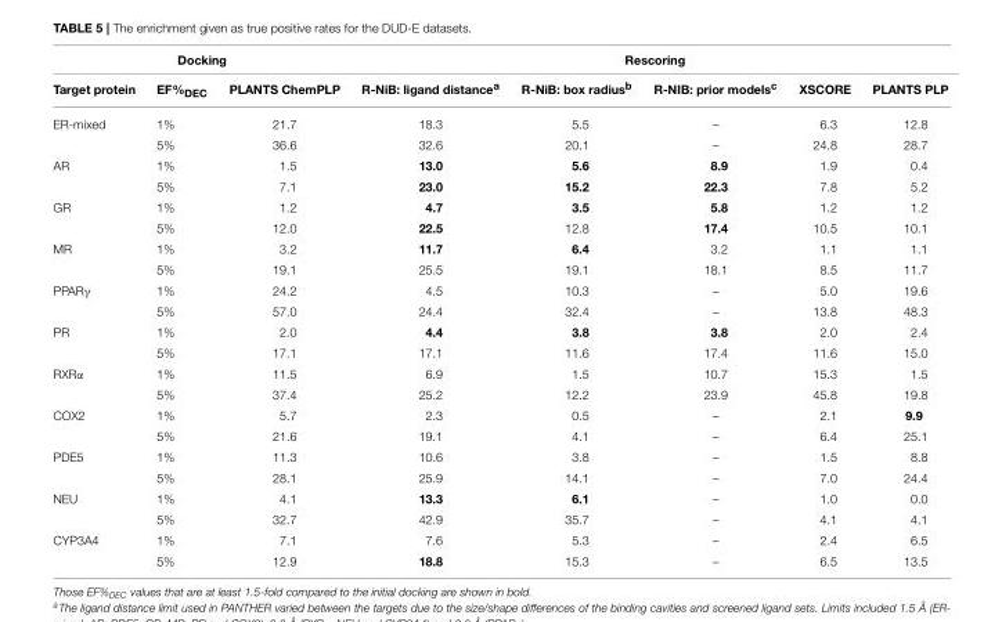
<table><thead><tr><td colspan="3">Docking</td><td colspan="5">Rescoring</td></tr><tr><td>Target protein</td><td>EF%<sub>DEC</sub></td><td>PLANTS ChemPLP</td><td>R-NiB: ligand distance<sup>a</sup></td><td>R-NiB: box radius<sup>b</sup></td><td>R-NIB: prior models<sup>c</sup></td><td>XSCORE</td><td>PLANTS PLP</td></tr></thead><tbody><tr><td rowspan="2">ER-mixed</td><td>1%</td><td>21.7</td><td>18.3</td><td>5.5</td><td>–</td><td>6.3</td><td>12.8</td></tr><tr><td>5%</td><td>36.6</td><td>32.6</td><td>20.1</td><td>–</td><td>24.8</td><td>28.7</td></tr><tr><td rowspan="2">AR</td><td>1%</td><td>1.5</td><td>13.0</td><td>5.6</td><td>8.9</td><td>1.9</td><td>0.4</td></tr><tr><td>5%</td><td>7.1</td><td>23.0</td><td>15.2</td><td>22.3</td><td>7.8</td><td>5.2</td></tr><tr><td rowspan="2">GR</td><td>1%</td><td>1.2</td><td>4.7</td><td>3.5</td><td>5.8</td><td>1.2</td><td>1.2</td></tr><tr><td>5%</td><td>12.0</td><td>22.5</td><td>12.8</td><td>17.4</td><td>10.5</td><td>10.1</td></tr><tr><td rowspan="2">MR</td><td>1%</td><td>3.2</td><td>11.7</td><td>6.4</td><td>3.2</td><td>1.1</td><td>1.1</td></tr><tr><td>5%</td><td>19.1</td><td>25.5</td><td>19.1</td><td>18.1</td><td>8.5</td><td>11.7</td></tr><tr><td rowspan="2">PPARγ</td><td>1%</td><td>24.2</td><td>4.5</td><td>10.3</td><td>–</td><td>5.0</td><td>19.6</td></tr><tr><td>5%</td><td>57.0</td><td>24.4</td><td>32.4</td><td>–</td><td>13.8</td><td>48.3</td></tr><tr><td rowspan="2">PR</td><td>1%</td><td>2.0</td><td>4.4</td><td>3.8</td><td>3.8</td><td>2.0</td><td>2.4</td></tr><tr><td>5%</td><td>17.1</td><td>17.1</td><td>11.6</td><td>17.4</td><td>11.6</td><td>15.0</td></tr><tr><td rowspan="2">RXRα</td><td>1%</td><td>11.5</td><td>6.9</td><td>1.5</td><td>10.7</td><td>15.3</td><td>1.5</td></tr><tr><td>5%</td><td>37.4</td><td>25.2</td><td>12.2</td><td>23.9</td><td>45.8</td><td>19.8</td></tr><tr><td rowspan="2">COX2</td><td>1%</td><td>5.7</td><td>2.3</td><td>0.5</td><td>–</td><td>2.1</td><td>9.9</td></tr><tr><td>5%</td><td>21.6</td><td>19.1</td><td>4.1</td><td>–</td><td>6.4</td><td>25.1</td></tr><tr><td rowspan="2">PDE5</td><td>1%</td><td>11.3</td><td>10.6</td><td>3.8</td><td>–</td><td>1.5</td><td>8.8</td></tr><tr><td>5%</td><td>28.1</td><td>25.9</td><td>14.1</td><td>–</td><td>7.0</td><td>24.4</td></tr><tr><td rowspan="2">NEU</td><td>1%</td><td>4.1</td><td>13.3</td><td>6.1</td><td>–</td><td>1.0</td><td>0.0</td></tr><tr><td>5%</td><td>32.7</td><td>42.9</td><td>35.7</td><td>–</td><td>4.1</td><td>4.1</td></tr><tr><td rowspan="2">CYP3A4</td><td>1%</td><td>7.1</td><td>7.6</td><td>5.3</td><td>–</td><td>2.4</td><td>6.5</td></tr><tr><td>5%</td><td>12.9</td><td>18.8</td><td>15.3</td><td>–</td><td>6.5</td><td>13.5</td></tr></tbody></table>